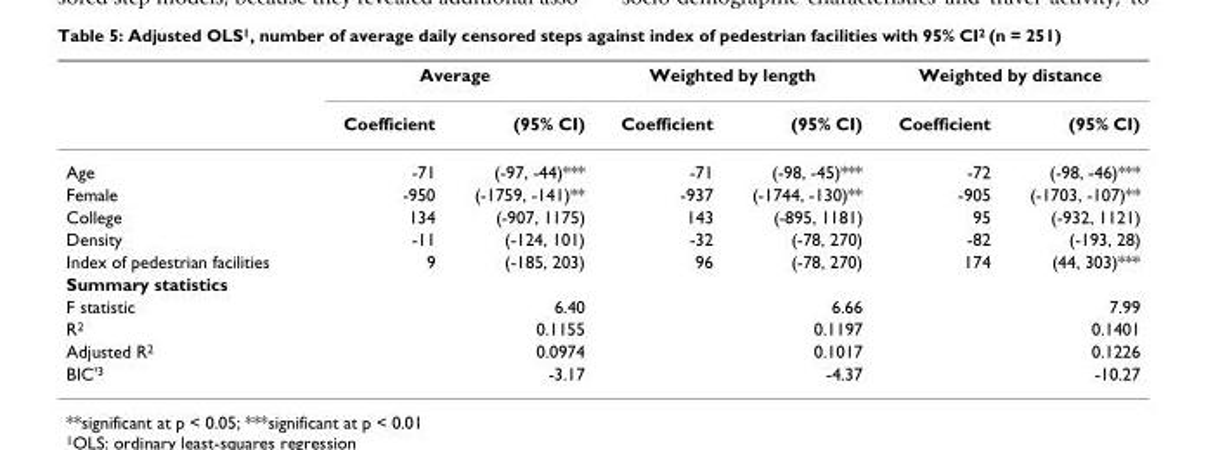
<table><thead><tr><td rowspan="2"></td><td colspan="2">Average</td><td colspan="2">Weighted by length</td><td colspan="2">Weighted by distance</td></tr><tr><td>Coefficient</td><td>(95% CI)</td><td>Coefficient</td><td>(95% CI)</td><td>Coefficient</td><td>(95% CI)</td></tr></thead><tbody><tr><td>Age</td><td>-71</td><td>(-97, -44)***</td><td>-71</td><td>(-98, -45)***</td><td>-72</td><td>(-98, -46)***</td></tr><tr><td>Female</td><td>-950</td><td>(-1759, -141)**</td><td>-937</td><td>(-1744, -130)**</td><td>-905</td><td>(-1703, -107)**</td></tr><tr><td>College</td><td>134</td><td>(-907, 1175)</td><td>143</td><td>(-895, 1181)</td><td>95</td><td>(-932, 1121)</td></tr><tr><td>Density</td><td>-11</td><td>(-124, 101)</td><td>-32</td><td>(-78, 270)</td><td>-82</td><td>(-193, 28)</td></tr><tr><td>Index of pedestrian facilities</td><td>9</td><td>(-185, 203)</td><td>96</td><td>(-78, 270)</td><td>174</td><td>(44, 303)***</td></tr><tr><td colspan="7">Summary statistics</td></tr><tr><td>F statistic</td><td></td><td>6.40</td><td></td><td>6.66</td><td></td><td>7.99</td></tr><tr><td>R<sup>2</sup></td><td></td><td>0.1155</td><td></td><td>0.1197</td><td></td><td>0.1401</td></tr><tr><td>Adjusted R<sup>2</sup></td><td></td><td>0.0974</td><td></td><td>0.1017</td><td></td><td>0.1226</td></tr><tr><td>BIC&#x27;<sup>3</sup></td><td></td><td>-3.17</td><td></td><td>-4.37</td><td></td><td>-10.27</td></tr></tbody></table>